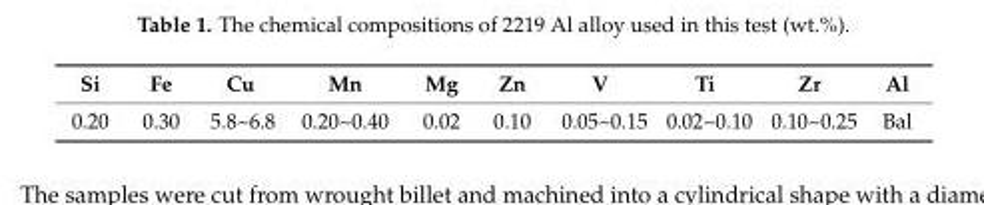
<table><thead><tr><td>Si</td><td>Fe</td><td>Cu</td><td>Mn</td><td>Mg</td><td>Zn</td><td>V</td><td>Ti</td><td>Zr</td><td>Al</td></tr></thead><tbody><tr><td>0.20</td><td>0.30</td><td>5.8~6.8</td><td>0.20~0.40</td><td>0.02</td><td>0.10</td><td>0.05~0.15</td><td>0.02~0.10</td><td>0.10~0.25</td><td>Bal</td></tr></tbody></table>